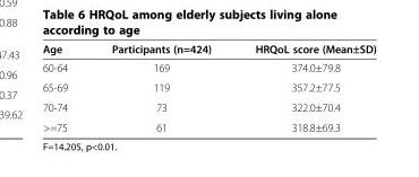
<table><thead><tr><td>Age</td><td>Participants (n=424)</td><td>HRQoL score (Mean±SD)</td></tr></thead><tbody><tr><td>60-64</td><td>169</td><td>374.0±79.8</td></tr><tr><td>65-69</td><td>119</td><td>357.2±77.5</td></tr><tr><td>70-74</td><td>73</td><td>322.0±70.4</td></tr><tr><td>&gt;=75</td><td>61</td><td>318.8±69.3</td></tr></tbody></table>